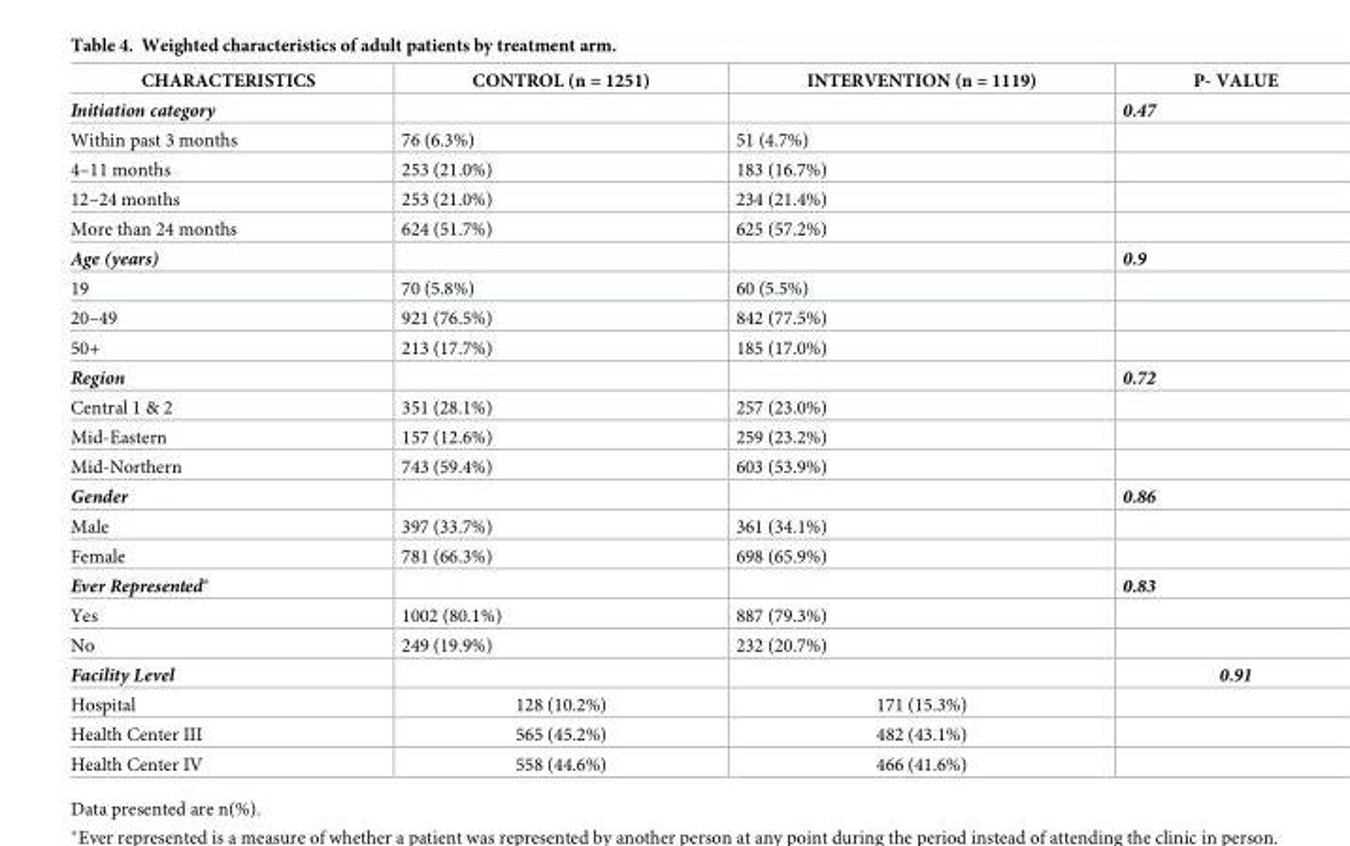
<table><thead><tr><td>CHARACTERISTICS</td><td>CONTROL (n = 1251)</td><td>INTERVENTION (n = 1119)</td><td>P- VALUE</td></tr></thead><tbody><tr><td>Initiation category</td><td></td><td></td><td>0.47</td></tr><tr><td>Within past 3 months</td><td>76 (6.3%)</td><td>51 (4.7%)</td><td></td></tr><tr><td>4–11 months</td><td>253 (21.0%)</td><td>183 (16.7%)</td><td></td></tr><tr><td>12–24 months</td><td>253 (21.0%)</td><td>234 (21.4%)</td><td></td></tr><tr><td>More than 24 months</td><td>624 (51.7%)</td><td>625 (57.2%)</td><td></td></tr><tr><td>Age (years)</td><td></td><td></td><td>0.9</td></tr><tr><td>19</td><td>70 (5.8%)</td><td>60 (5.5%)</td><td></td></tr><tr><td>20–49</td><td>921 (76.5%)</td><td>842 (77.5%)</td><td></td></tr><tr><td>50+</td><td>213 (17.7%)</td><td>185 (17.0%)</td><td></td></tr><tr><td>Region</td><td></td><td></td><td>0.72</td></tr><tr><td>Central 1 &amp; 2</td><td>351 (28.1%)</td><td>257 (23.0%)</td><td></td></tr><tr><td>Mid-Eastern</td><td>157 (12.6%)</td><td>259 (23.2%)</td><td></td></tr><tr><td>Mid-Northern</td><td>743 (59.4%)</td><td>603 (53.9%)</td><td></td></tr><tr><td>Gender</td><td></td><td></td><td>0.86</td></tr><tr><td>Male</td><td>397 (33.7%)</td><td>361 (34.1%)</td><td></td></tr><tr><td>Female</td><td>781 (66.3%)</td><td>698 (65.9%)</td><td></td></tr><tr><td>Ever Represented*</td><td></td><td></td><td>0.83</td></tr><tr><td>Yes</td><td>1002 (80.1%)</td><td>887 (79.3%)</td><td></td></tr><tr><td>No</td><td>249 (19.9%)</td><td>232 (20.7%)</td><td></td></tr><tr><td>Facility Level</td><td></td><td></td><td>0.91</td></tr><tr><td>Hospital</td><td>128 (10.2%)</td><td>171 (15.3%)</td><td></td></tr><tr><td>Health Center III</td><td>565 (45.2%)</td><td>482 (43.1%)</td><td></td></tr><tr><td>Health Center IV</td><td>558 (44.6%)</td><td>466 (41.6%)</td><td></td></tr></tbody></table>